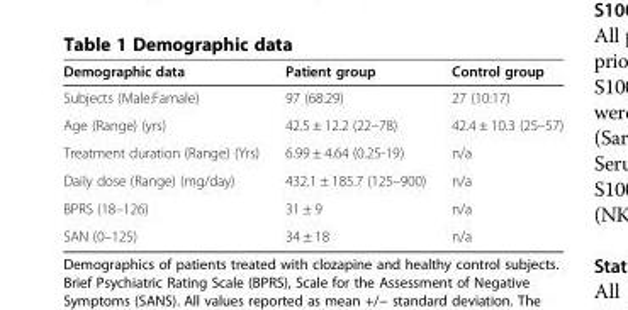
<table><thead><tr><td>Demographic data</td><td>Patient group</td><td>Control group</td></tr></thead><tbody><tr><td>Subjects (Male:Famale)</td><td>97 (68:29)</td><td>27 (10:17)</td></tr><tr><td>Age (Range) (yrs)</td><td>42.5 ± 12.2 (22–78)</td><td>42.4 ± 10.3 (25–57)</td></tr><tr><td>Treatment duration (Range) (Yrs)</td><td>6.99 ± 4.64 (0.25-19)</td><td>n/a</td></tr><tr><td>Daily dose (Range) (mg/day)</td><td>432.1 ± 185.7 (125–900)</td><td>n/a</td></tr><tr><td>BPRS (18–126)</td><td>31 ± 9</td><td>n/a</td></tr><tr><td>SAN (0–125)</td><td>34 ± 18</td><td>n/a</td></tr></tbody></table>